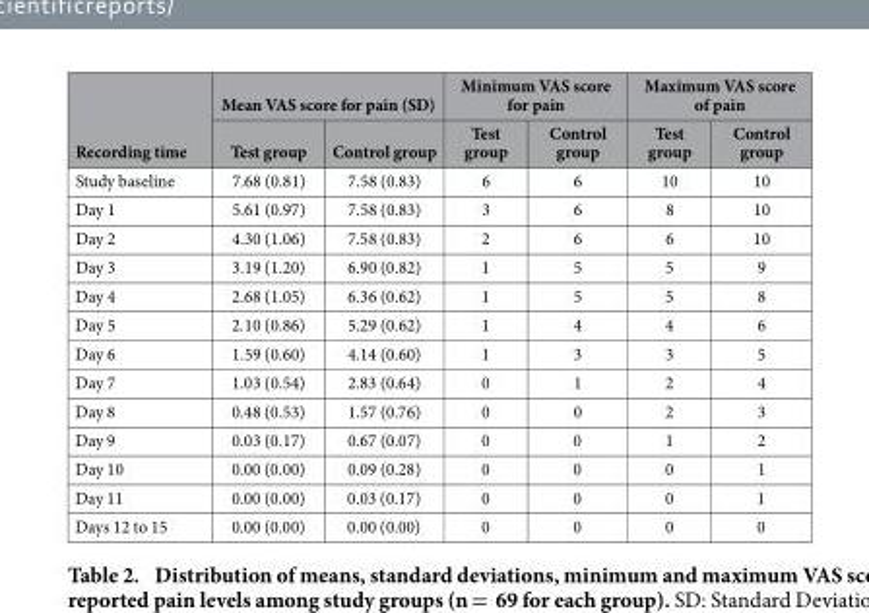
<table><thead><tr><td rowspan="2">Recording time</td><td colspan="2">Mean VAS score for pain (SD)</td><td colspan="2">Minimum VAS score for pain</td><td colspan="2">Maximum VAS score of pain</td></tr><tr><td>Test group</td><td>Control group</td><td>Test group</td><td>Control group</td><td>Test group</td><td>Control group</td></tr></thead><tbody><tr><td>Study baseline</td><td>7.68 (0.81)</td><td>7.58 (0.83)</td><td>6</td><td>6</td><td>10</td><td>10</td></tr><tr><td>Day 1</td><td>5.61 (0.97)</td><td>7.58 (0.83)</td><td>3</td><td>6</td><td>8</td><td>10</td></tr><tr><td>Day 2</td><td>4.30 (1.06)</td><td>7.58 (0.83)</td><td>2</td><td>6</td><td>6</td><td>10</td></tr><tr><td>Day 3</td><td>3.19 (1.20)</td><td>6.90 (0.82)</td><td>1</td><td>5</td><td>5</td><td>9</td></tr><tr><td>Day 4</td><td>2.68 (1.05)</td><td>6.36 (0.62)</td><td>1</td><td>5</td><td>5</td><td>8</td></tr><tr><td>Day 5</td><td>2.10 (0.86)</td><td>5.29 (0.62)</td><td>1</td><td>4</td><td>4</td><td>6</td></tr><tr><td>Day 6</td><td>1.59 (0.60)</td><td>4.14 (0.60)</td><td>1</td><td>3</td><td>3</td><td>5</td></tr><tr><td>Day 7</td><td>1.03 (0.54)</td><td>2.83 (0.64)</td><td>0</td><td>1</td><td>2</td><td>4</td></tr><tr><td>Day 8</td><td>0.48 (0.53)</td><td>1.57 (0.76)</td><td>0</td><td>0</td><td>2</td><td>3</td></tr><tr><td>Day 9</td><td>0.03 (0.17)</td><td>0.67 (0.07)</td><td>0</td><td>0</td><td>1</td><td>2</td></tr><tr><td>Day 10</td><td>0.00 (0.00)</td><td>0.09 (0.28)</td><td>0</td><td>0</td><td>0</td><td>1</td></tr><tr><td>Day 11</td><td>0.00 (0.00)</td><td>0.03 (0.17)</td><td>0</td><td>0</td><td>0</td><td>1</td></tr><tr><td>Days 12 to 15</td><td>0.00 (0.00)</td><td>0.00 (0.00)</td><td>0</td><td>0</td><td>0</td><td>0</td></tr></tbody></table>